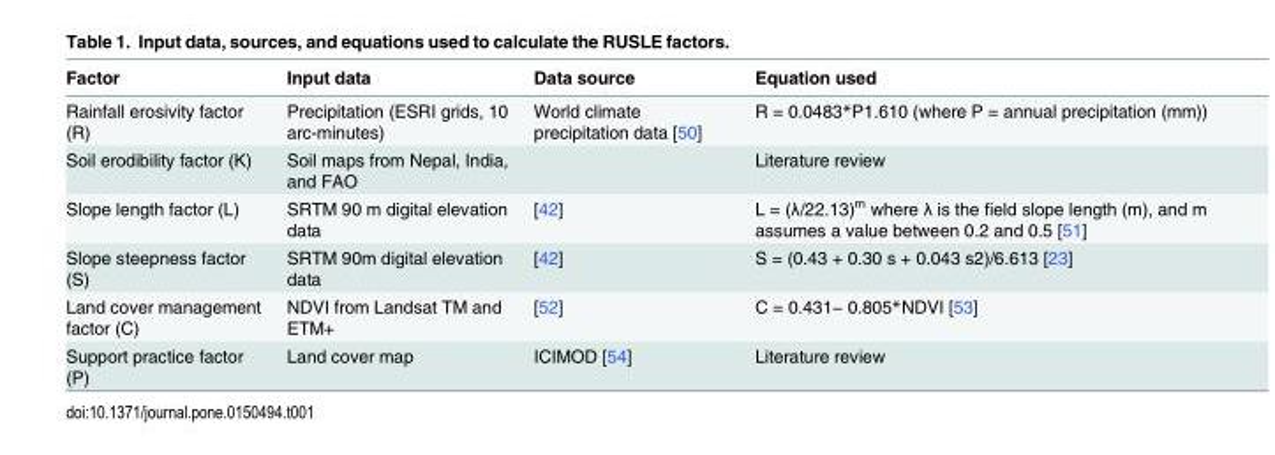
<table><thead><tr><td>Factor</td><td>Input data</td><td>Data source</td><td>Equation used</td></tr></thead><tbody><tr><td>Rainfall erosivity factor (R)</td><td>Precipitation (ESRI grids, 10 arc-minutes)</td><td>World climate precipitation data [50]</td><td>R = 0.0483*P1.610 (where P = annual precipitation (mm))</td></tr><tr><td>Soil erodibility factor (K)</td><td>Soil maps from Nepal, India, and FAO</td><td></td><td>Literature review</td></tr><tr><td>Slope length factor (L)</td><td>SRTM 90 m digital elevation data</td><td>[42]</td><td>L = (λ/22.13)<sup>m</sup> where λ is the field slope length (m), and m assumes a value between 0.2 and 0.5 [51]</td></tr><tr><td>Slope steepness factor (S)</td><td>SRTM 90m digital elevation data</td><td>[42]</td><td>S = (0.43 + 0.30 s + 0.043 s2)/6.613 [23]</td></tr><tr><td>Land cover management factor (C)</td><td>NDVI from Landsat TM and ETM+</td><td>[52]</td><td>C = 0.431− 0.805*NDVI [53]</td></tr><tr><td>Support practice factor (P)</td><td>Land cover map</td><td>ICIMOD [54]</td><td>Literature review</td></tr></tbody></table>